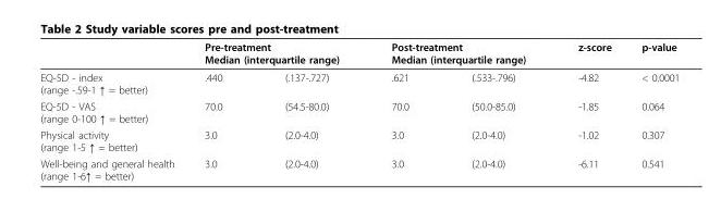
<table><thead><tr><td rowspan="2">EQ-5D - index (range -.59-1 ↑ = better)</td><td colspan="2">Pre-treatment Median (interquartile range)</td><td colspan="2">Post-treatment Median (interquartile range)</td><td rowspan="2">z-score -4.82</td><td rowspan="2">p-value &lt; 0.0001</td></tr><tr><td>.440</td><td>(.137-.727)</td><td>.621</td><td>(.533-.796)</td></tr></thead><tbody><tr><td>EQ-5D - VAS (range 0-100 ↑ = better)</td><td>70.0</td><td>(54.5-80.0)</td><td>70.0</td><td>(50.0-85.0)</td><td>-1.85</td><td>0.064</td></tr><tr><td>Physical activity (range 1-5 ↑ = better)</td><td>3.0</td><td>(2.0-4.0)</td><td>3.0</td><td>(2.0-4.0)</td><td>-1.02</td><td>0.307</td></tr><tr><td>Well-being and general health (range 1-6↑ = better)</td><td>3.0</td><td>(2.0-4.0)</td><td>3.0</td><td>(2.0-4.0)</td><td>-6.11</td><td>0.541</td></tr></tbody></table>